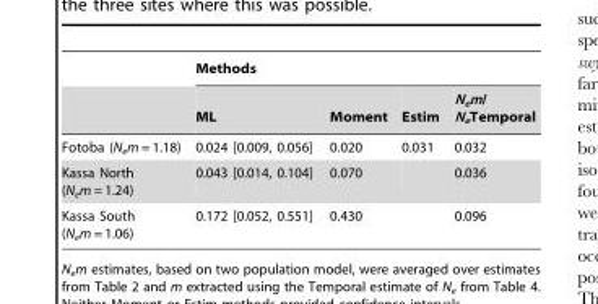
<table><thead><tr><td rowspan="2"></td><td colspan="4">Methods</td></tr><tr><td>ML</td><td>Moment</td><td>Estim</td><td>N<sub>e</sub>m/ N<sub>e</sub>Temporal</td></tr></thead><tbody><tr><td>Fotoba (N<sub>e</sub>m = 1.18)</td><td>0.024 [0.009, 0.056]</td><td>0.020</td><td>0.031</td><td>0.032</td></tr><tr><td>Kassa North (N<sub>e</sub>m = 1.24)</td><td>0.043 [0.014, 0.104]</td><td>0.070</td><td></td><td>0.036</td></tr><tr><td>Kassa South (N<sub>e</sub>m = 1.06)</td><td>0.172 [0.052, 0.551]</td><td>0.430</td><td></td><td>0.096</td></tr></tbody></table>